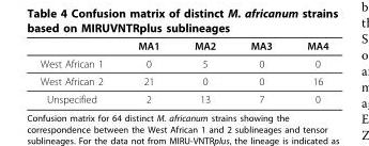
<table><thead><tr><td></td><td>MA1</td><td>MA2</td><td>MA3</td><td>MA4</td></tr></thead><tbody><tr><td>West African 1</td><td>0</td><td>5</td><td>0</td><td>0</td></tr><tr><td>West African 2</td><td>21</td><td>0</td><td>0</td><td>16</td></tr><tr><td>Unspecified</td><td>2</td><td>13</td><td>7</td><td>0</td></tr></tbody></table>